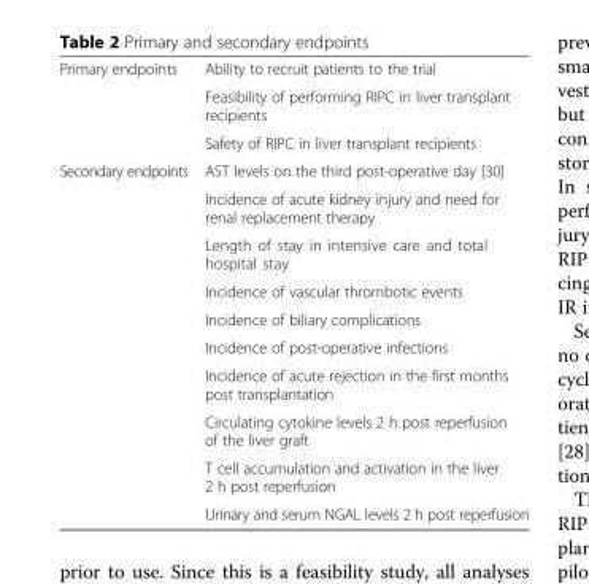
<table><tbody><tr><td rowspan="3">Primary endpoints</td><td>Ability to recruit patients to the trial</td></tr><tr><td>Feasibility of performing RIPC in liver transplant recipients</td></tr><tr><td>Safety of RIPC in liver transplant recipients</td></tr><tr><td rowspan="10">Secondary endpoints</td><td>AST levels on the third post-operative day [30]</td></tr><tr><td>Incidence of acute kidney injury and need for renal replacement therapy</td></tr><tr><td>Length of stay in intensive care and total hospital stay</td></tr><tr><td>Incidence of vascular thrombotic events</td></tr><tr><td>Incidence of biliary complications</td></tr><tr><td>Incidence of post-operative infections</td></tr><tr><td>Incidence of acute rejection in the first months post transplantation</td></tr><tr><td>Circulating cytokine levels 2 h post reperfusion of the liver graft</td></tr><tr><td>T cell accumulation and activation in the liver 2 h post reperfusion</td></tr><tr><td>Urinary and serum NGAL levels 2 h post reperfusion</td></tr></tbody></table>